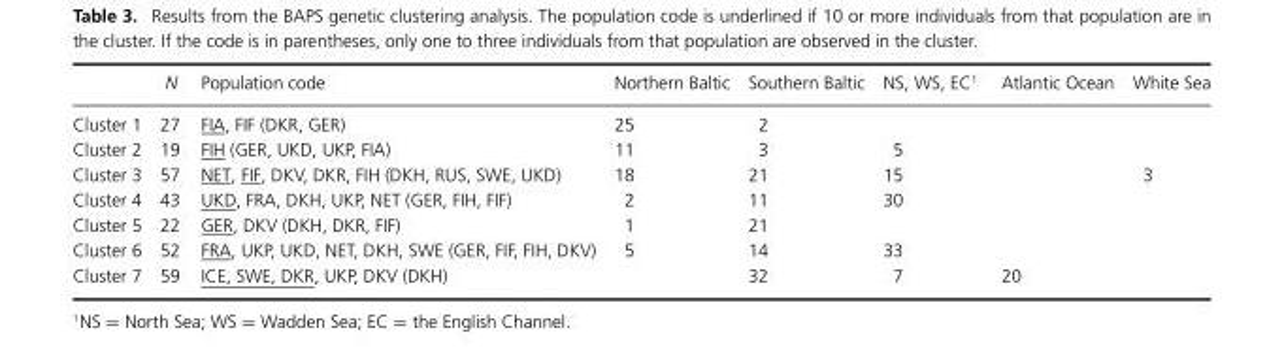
<table><thead><tr><td></td><td>N</td><td>Population code</td><td>Northern Baltic</td><td>Southern Baltic</td><td>NS, WS, EC<sup>1</sup></td><td>Atlantic Ocean</td><td>White Sea</td></tr></thead><tbody><tr><td>Cluster 1</td><td>27</td><td>FIA, FIF (DKR, GER)</td><td>25</td><td>2</td><td></td><td></td><td></td></tr><tr><td>Cluster 2</td><td>19</td><td>FIH (GER, UKD, UKP, FIA)</td><td>11</td><td>3</td><td>5</td><td></td><td></td></tr><tr><td>Cluster 3</td><td>57</td><td>NET, FIF, DKV, DKR, FIH (DKH, RUS, SWE, UKD)</td><td>18</td><td>21</td><td>15</td><td></td><td>3</td></tr><tr><td>Cluster 4</td><td>43</td><td>UKD, FRA, DKH, UKP, NET (GER, FIH, FIF)</td><td>2</td><td>11</td><td>30</td><td></td><td></td></tr><tr><td>Cluster 5</td><td>22</td><td>GER, DKV (DKH, DKR, FIF)</td><td>1</td><td>21</td><td></td><td></td><td></td></tr><tr><td>Cluster 6</td><td>52</td><td>FRA, UKP, UKD, NET, DKH, SWE (GER, FIF, FIH, DKV)</td><td>5</td><td>14</td><td>33</td><td></td><td></td></tr><tr><td>Cluster 7</td><td>59</td><td>ICE, SWE, DKR, UKP, DKV (DKH)</td><td></td><td>32</td><td>7</td><td>20</td><td></td></tr></tbody></table>